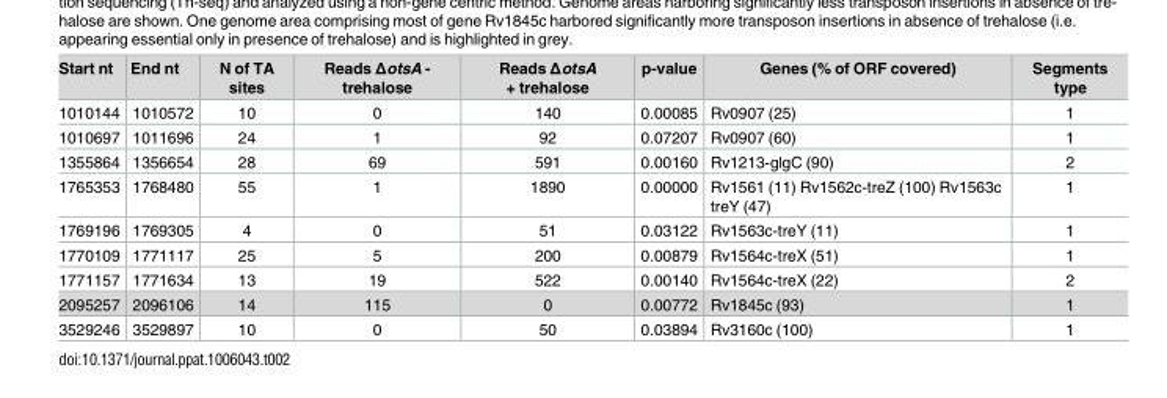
<table><thead><tr><td>Start nt</td><td>End nt</td><td>N of TA sites</td><td>Reads ΔotsA - trehalose</td><td>Reads ΔotsA + trehalose</td><td>p-value</td><td>Genes (% of ORF covered)</td><td>Segments type</td></tr></thead><tbody><tr><td>1010144</td><td>1010572</td><td>10</td><td>0</td><td>140</td><td>0.00085</td><td>Rv0907 (25)</td><td>1</td></tr><tr><td>1010697</td><td>1011696</td><td>24</td><td>1</td><td>92</td><td>0.07207</td><td>Rv0907 (60)</td><td>1</td></tr><tr><td>1355864</td><td>1356654</td><td>28</td><td>69</td><td>591</td><td>0.00160</td><td>Rv1213-glgC (90)</td><td>2</td></tr><tr><td>1765353</td><td>1768480</td><td>55</td><td>1</td><td>1890</td><td>0.00000</td><td>Rv1561 (11) Rv1562c-treZ (100) Rv1563c treY (47)</td><td>1</td></tr><tr><td>1769196</td><td>1769305</td><td>4</td><td>0</td><td>51</td><td>0.03122</td><td>Rv1563c-treY (11)</td><td>1</td></tr><tr><td>1770109</td><td>1771117</td><td>25</td><td>5</td><td>200</td><td>0.00879</td><td>Rv1564c-treX (51)</td><td>1</td></tr><tr><td>1771157</td><td>1771634</td><td>13</td><td>19</td><td>522</td><td>0.00140</td><td>Rv1564c-treX (22)</td><td>2</td></tr><tr><td>2095257</td><td>2096106</td><td>14</td><td>115</td><td>0</td><td>0.00772</td><td>Rv1845c (93)</td><td>1</td></tr><tr><td>3529246</td><td>3529897</td><td>10</td><td>0</td><td>50</td><td>0.03894</td><td>Rv3160c (100)</td><td>1</td></tr></tbody></table>